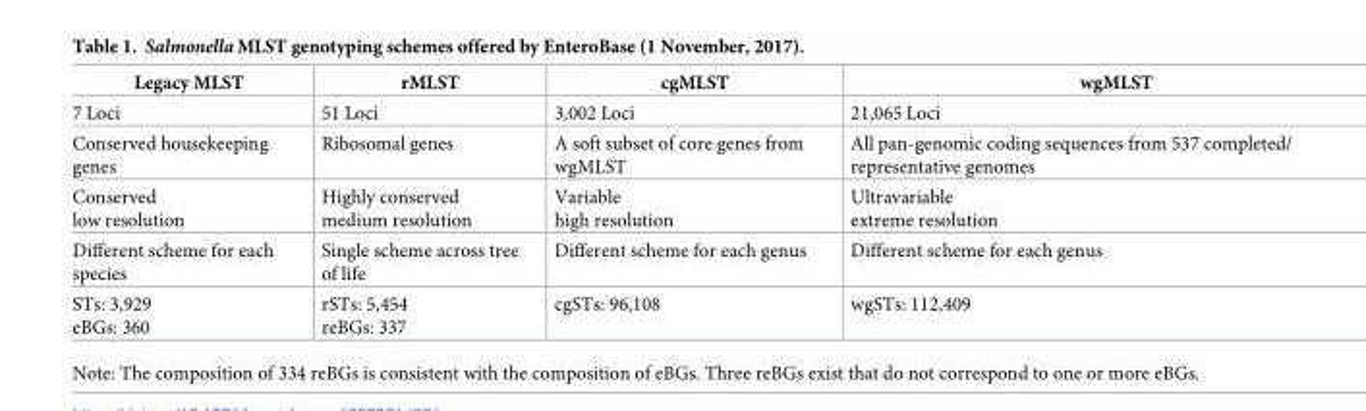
<table><thead><tr><td>Legacy MLST</td><td>rMLST</td><td>cgMLST</td><td>wgMLST</td></tr></thead><tbody><tr><td>7 Loci</td><td>51 Loci</td><td>3,002 Loci</td><td>21,065 Loci</td></tr><tr><td>Conserved housekeeping genes</td><td>Ribosomal genes</td><td>A soft subset of core genes from wgMLST</td><td>All pan-genomic coding sequences from 537 completed/ representative genomes</td></tr><tr><td>Conserved low resolution</td><td>Highly conserved medium resolution</td><td>Variable high resolution</td><td>Ultravariable extreme resolution</td></tr><tr><td>Different scheme for each species</td><td>Single scheme across tree of life</td><td>Different scheme for each genus</td><td>Different scheme for each genus</td></tr><tr><td>STs: 3,929 eBGs: 360</td><td>rSTs: 5,454 reBGs: 337</td><td>cgSTs: 96,108</td><td>wgSTs: 112,409</td></tr></tbody></table>